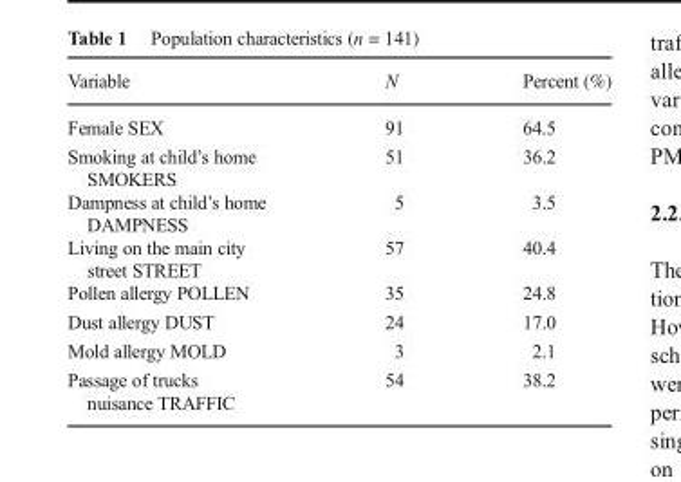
<table><thead><tr><td>Variable</td><td>N</td><td>Percent (%)</td></tr></thead><tbody><tr><td>Female SEX</td><td>91</td><td>64.5</td></tr><tr><td>Smoking at child’s home SMOKERS</td><td>51</td><td>36.2</td></tr><tr><td>Dampness at child’s home DAMPNESS</td><td>5</td><td>3.5</td></tr><tr><td>Living on the main city street STREET</td><td>57</td><td>40.4</td></tr><tr><td>Pollen allergy POLLEN</td><td>35</td><td>24.8</td></tr><tr><td>Dust allergy DUST</td><td>24</td><td>17.0</td></tr><tr><td>Mold allergy MOLD</td><td>3</td><td>2.1</td></tr><tr><td>Passage of trucks nuisance TRAFFIC</td><td>54</td><td>38.2</td></tr></tbody></table>